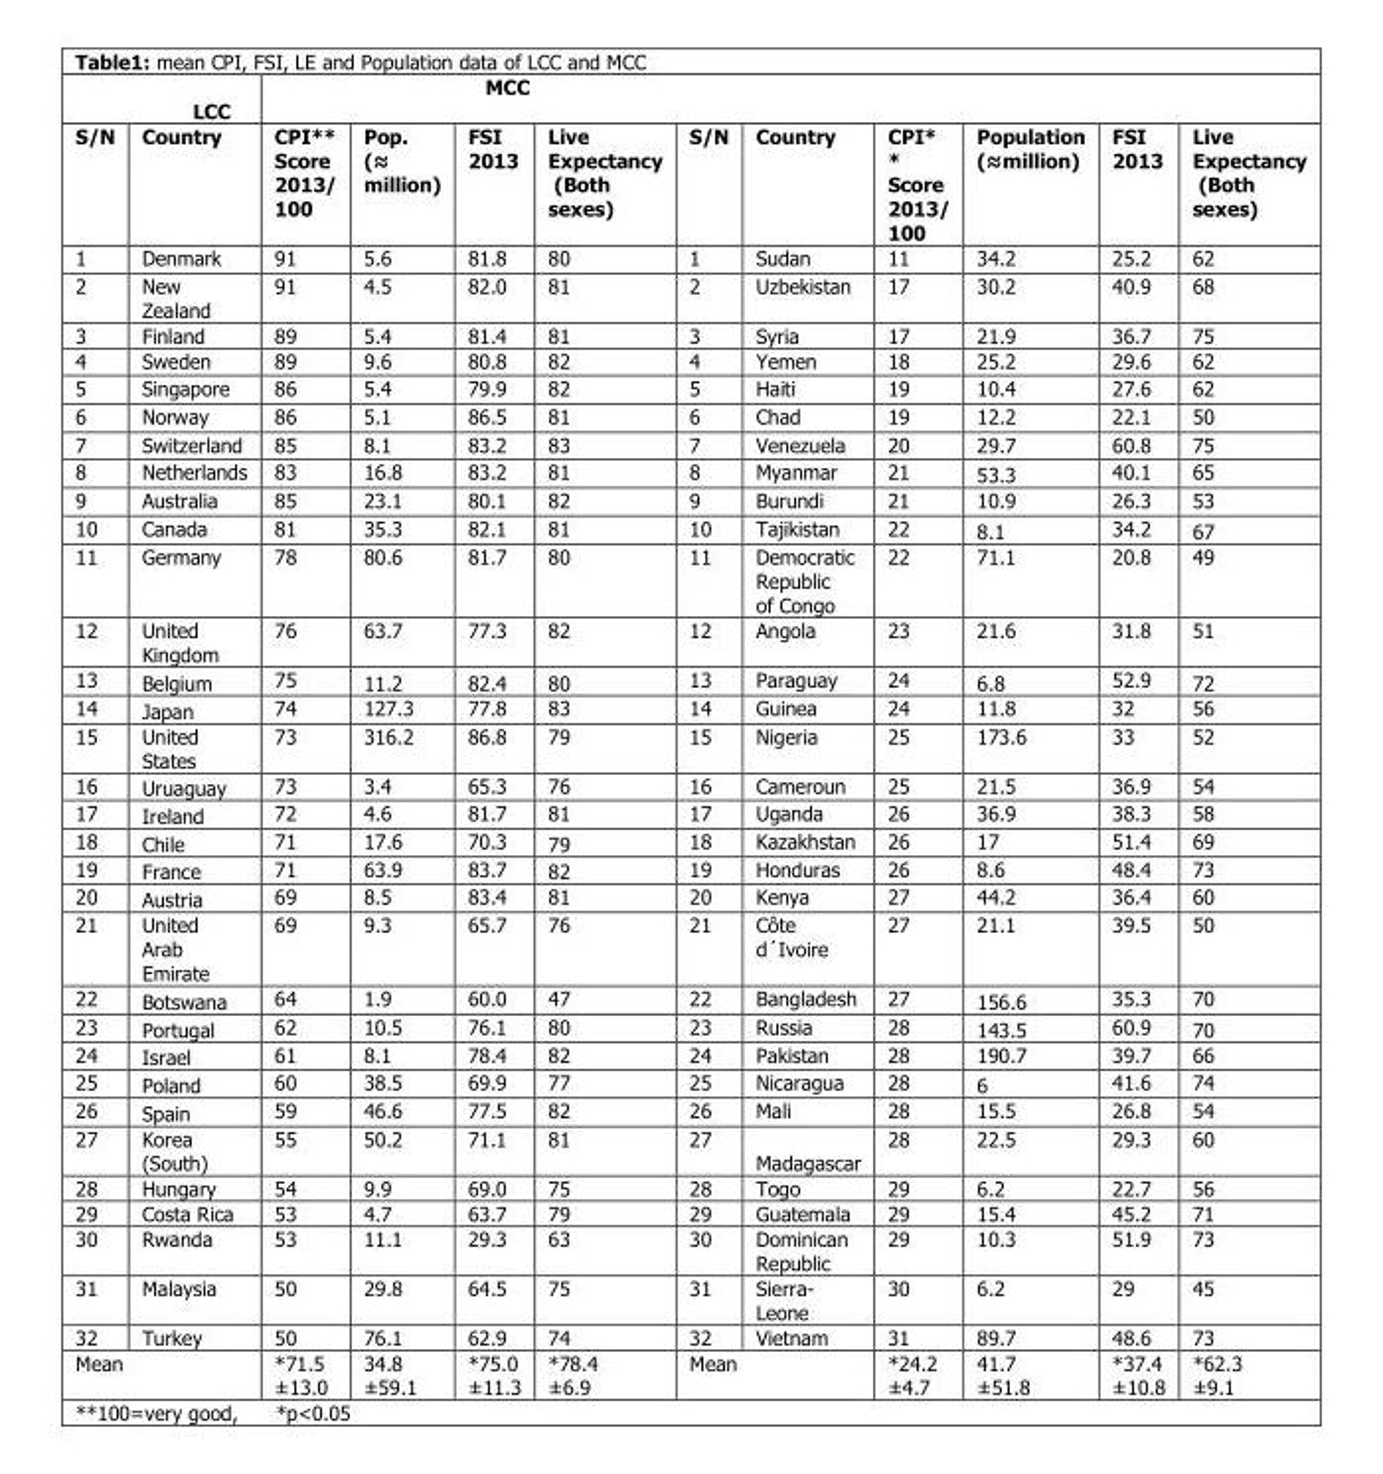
<table><thead><tr><td colspan="2">LCC</td><td colspan="10">MCC</td></tr><tr><td>S/N</td><td>Country</td><td>CPI** Score 2013/ 100</td><td>Pop. (≈ million)</td><td>FSI 2013</td><td>Live Expectancy (Both sexes)</td><td>S/N</td><td>Country</td><td>CPI* * Score 2013/ 100</td><td>Population (≈million)</td><td>FSI 2013</td><td>Live Expectancy (Both sexes)</td></tr></thead><tbody><tr><td>1</td><td>Denmark</td><td>91</td><td>5.6</td><td>81.8</td><td>80</td><td>1</td><td>Sudan</td><td>11</td><td>34.2</td><td>25.2</td><td>62</td></tr><tr><td>2</td><td>New Zealand</td><td>91</td><td>4.5</td><td>82.0</td><td>81</td><td>2</td><td>Uzbekistan</td><td>17</td><td>30.2</td><td>40.9</td><td>68</td></tr><tr><td>3</td><td>Finland</td><td>89</td><td>5.4</td><td>81.4</td><td>81</td><td>3</td><td>Syria</td><td>17</td><td>21.9</td><td>36.7</td><td>75</td></tr><tr><td>4</td><td>Sweden</td><td>89</td><td>9.6</td><td>80.8</td><td>82</td><td>4</td><td>Yemen</td><td>18</td><td>25.2</td><td>29.6</td><td>62</td></tr><tr><td>5</td><td>Singapore</td><td>86</td><td>5.4</td><td>79.9</td><td>82</td><td>5</td><td>Haiti</td><td>19</td><td>10.4</td><td>27.6</td><td>62</td></tr><tr><td>6</td><td>Norway</td><td>86</td><td>5.1</td><td>86.5</td><td>81</td><td>6</td><td>Chad</td><td>19</td><td>12.2</td><td>22.1</td><td>50</td></tr><tr><td>7</td><td>Switzerland</td><td>85</td><td>8.1</td><td>83.2</td><td>83</td><td>7</td><td>Venezuela</td><td>20</td><td>29.7</td><td>60.8</td><td>75</td></tr><tr><td>8</td><td>Netherlands</td><td>83</td><td>16.8</td><td>83.2</td><td>81</td><td>8</td><td>Myanmar</td><td>21</td><td>53.3</td><td>40.1</td><td>65</td></tr><tr><td>9</td><td>Australia</td><td>85</td><td>23.1</td><td>80.1</td><td>82</td><td>9</td><td>Burundi</td><td>21</td><td>10.9</td><td>26.3</td><td>53</td></tr><tr><td>10</td><td>Canada</td><td>81</td><td>35.3</td><td>82.1</td><td>81</td><td>10</td><td>Tajikistan</td><td>22</td><td>8.1</td><td>34.2</td><td>67</td></tr><tr><td>11</td><td>Germany</td><td>78</td><td>80.6</td><td>81.7</td><td>80</td><td>11</td><td>Democratic Republic of Congo</td><td>22</td><td>71.1</td><td>20.8</td><td>49</td></tr><tr><td>12</td><td>United Kingdom</td><td>76</td><td>63.7</td><td>77.3</td><td>82</td><td>12</td><td>Angola</td><td>23</td><td>21.6</td><td>31.8</td><td>51</td></tr><tr><td>13</td><td>Belgium</td><td>75</td><td>11.2</td><td>82.4</td><td>80</td><td>13</td><td>Paraguay</td><td>24</td><td>6.8</td><td>52.9</td><td>72</td></tr><tr><td>14</td><td>Japan</td><td>74</td><td>127.3</td><td>77.8</td><td>83</td><td>14</td><td>Guinea</td><td>24</td><td>11.8</td><td>32</td><td>56</td></tr><tr><td>15</td><td>United States</td><td>73</td><td>316.2</td><td>86.8</td><td>79</td><td>15</td><td>Nigeria</td><td>25</td><td>173.6</td><td>33</td><td>52</td></tr><tr><td>16</td><td>Uruaguay</td><td>73</td><td>3.4</td><td>65.3</td><td>76</td><td>16</td><td>Cameroun</td><td>25</td><td>21.5</td><td>36.9</td><td>54</td></tr><tr><td>17</td><td>Ireland</td><td>72</td><td>4.6</td><td>81.7</td><td>81</td><td>17</td><td>Uganda</td><td>26</td><td>36.9</td><td>38.3</td><td>58</td></tr><tr><td>18</td><td>Chile</td><td>71</td><td>17.6</td><td>70.3</td><td>79</td><td>18</td><td>Kazakhstan</td><td>26</td><td>17</td><td>51.4</td><td>69</td></tr><tr><td>19</td><td>France</td><td>71</td><td>63.9</td><td>83.7</td><td>82</td><td>19</td><td>Honduras</td><td>26</td><td>8.6</td><td>48.4</td><td>73</td></tr><tr><td>20</td><td>Austria</td><td>69</td><td>8.5</td><td>83.4</td><td>81</td><td>20</td><td>Kenya</td><td>27</td><td>44.2</td><td>36.4</td><td>60</td></tr><tr><td>21</td><td>United Arab Emirate</td><td>69</td><td>9.3</td><td>65.7</td><td>76</td><td>21</td><td>Côte d´Ivoire</td><td>27</td><td>21.1</td><td>39.5</td><td>50</td></tr><tr><td>22</td><td>Botswana</td><td>64</td><td>1.9</td><td>60.0</td><td>47</td><td>22</td><td>Bangladesh</td><td>27</td><td>156.6</td><td>35.3</td><td>70</td></tr><tr><td>23</td><td>Portugal</td><td>62</td><td>10.5</td><td>76.1</td><td>80</td><td>23</td><td>Russia</td><td>28</td><td>143.5</td><td>60.9</td><td>70</td></tr><tr><td>24</td><td>Israel</td><td>61</td><td>8.1</td><td>78.4</td><td>82</td><td>24</td><td>Pakistan</td><td>28</td><td>190.7</td><td>39.7</td><td>66</td></tr><tr><td>25</td><td>Poland</td><td>60</td><td>38.5</td><td>69.9</td><td>77</td><td>25</td><td>Nicaragua</td><td>28</td><td>6</td><td>41.6</td><td>74</td></tr><tr><td>26</td><td>Spain</td><td>59</td><td>46.6</td><td>77.5</td><td>82</td><td>26</td><td>Mali</td><td>28</td><td>15.5</td><td>26.8</td><td>54</td></tr><tr><td>27</td><td>Korea (South)</td><td>55</td><td>50.2</td><td>71.1</td><td>81</td><td>27</td><td>Madagascar</td><td>28</td><td>22.5</td><td>29.3</td><td>60</td></tr><tr><td>28</td><td>Hungary</td><td>54</td><td>9.9</td><td>69.0</td><td>75</td><td>28</td><td>Togo</td><td>29</td><td>6.2</td><td>22.7</td><td>56</td></tr><tr><td>29</td><td>Costa Rica</td><td>53</td><td>4.7</td><td>63.7</td><td>79</td><td>29</td><td>Guatemala</td><td>29</td><td>15.4</td><td>45.2</td><td>71</td></tr><tr><td>30</td><td>Rwanda</td><td>53</td><td>11.1</td><td>29.3</td><td>63</td><td>30</td><td>Dominican Republic</td><td>29</td><td>10.3</td><td>51.9</td><td>73</td></tr><tr><td>31</td><td>Malaysia</td><td>50</td><td>29.8</td><td>64.5</td><td>75</td><td>31</td><td>Sierra- Leone</td><td>30</td><td>6.2</td><td>29</td><td>45</td></tr><tr><td>32</td><td>Turkey</td><td>50</td><td>76.1</td><td>62.9</td><td>74</td><td>32</td><td>Vietnam</td><td>31</td><td>89.7</td><td>48.6</td><td>73</td></tr><tr><td colspan="2">Mean</td><td>*71.5 ±13.0</td><td>34.8 ±59.1</td><td>*75.0 ±11.3</td><td>*78.4 ±6.9</td><td colspan="2">Mean</td><td>*24.2 ±4.7</td><td>41.7 ±51.8</td><td>*37.4 ±10.8</td><td>*62.3 ±9.1</td></tr></tbody></table>